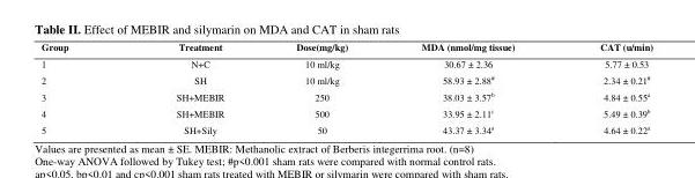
<table><thead><tr><td>Group</td><td>Treatment</td><td>Dose(mg/kg)</td><td>MDA (nmol/mg tissue)</td><td>CAT (u/min)</td></tr></thead><tbody><tr><td>1</td><td>N+C</td><td>10 ml/kg</td><td>30.67 ± 2.36</td><td>5.77 ± 0.53</td></tr><tr><td>2</td><td>SH</td><td>10 ml/kg</td><td>58.93 ± 2.88P#</td><td>2.34 ± 0.21P#</td></tr><tr><td>3</td><td>SH+MEBIR</td><td>250</td><td>38.03 ± 3.57Pb</td><td>4.84 ± 0.55Pa</td></tr><tr><td>4</td><td>SH+MEBIR</td><td>500</td><td>33.95 ± 2.11Pc</td><td>5.49 ± 0.39Pb</td></tr><tr><td>5</td><td>SH+Sily</td><td>50</td><td>43.37 ± 3.34Pa</td><td>4.64 ± 0.22Pa</td></tr></tbody></table>